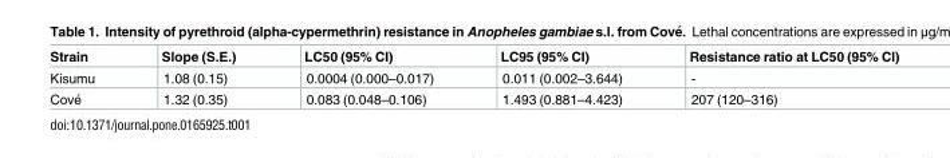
<table><thead><tr><td>Strain</td><td>Slope (S.E.)</td><td>LC50 (95% CI)</td><td>LC95 (95% CI)</td><td>Resistance ratio at LC50 (95% CI)</td></tr></thead><tbody><tr><td>Kisumu</td><td>1.08 (0.15)</td><td>0.0004 (0.000–0.017)</td><td>0.011 (0.002–3.644)</td><td>-</td></tr><tr><td>Cove´</td><td>1.32 (0.35)</td><td>0.083 (0.048–0.106)</td><td>1.493 (0.881–4.423)</td><td>207 (120–316)</td></tr></tbody></table>